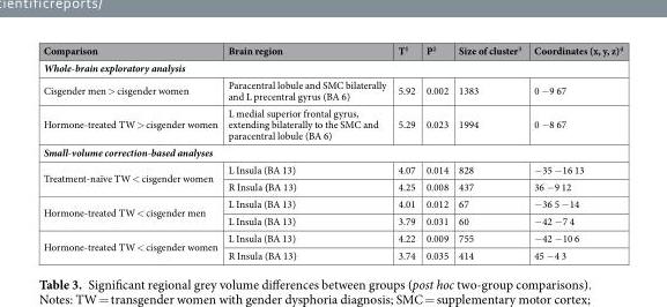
<table><thead><tr><td>Comparison</td><td>Brain region</td><td>T<sup>1</sup></td><td>P<sup>2</sup></td><td>Size of cluster<sup>3</sup></td><td>Coordinates (x, y, z)<sup>4</sup></td></tr></thead><tbody><tr><td colspan="6">Whole-brain exploratory analysis</td></tr><tr><td>Cisgender men &gt; cisgender women</td><td>Paracentral lobule and SMC bilaterally and L precentral gyrus (BA 6)</td><td>5.92</td><td>0.002</td><td>1383</td><td>0 −9 67</td></tr><tr><td>Hormone-treated TW &gt; cisgender women</td><td>L medial superior frontal gyrus, extending bilaterally to the SMC and paracentral lobule (BA 6)</td><td>5.29</td><td>0.023</td><td>1994</td><td>0 −8 67</td></tr><tr><td colspan="6">Small-volume correction-based analyses</td></tr><tr><td rowspan="2">Treatment-naïve TW &lt; cisgender women</td><td>L Insula (BA 13)</td><td>4.07</td><td>0.014</td><td>828</td><td>−35 −16 13</td></tr><tr><td>R Insula (BA 13)</td><td>4.25</td><td>0.008</td><td>437</td><td>36 −9 12</td></tr><tr><td rowspan="2">Hormone-treated TW &lt; cisgender men</td><td>L Insula (BA 13)</td><td>4.01</td><td>0.012</td><td>67</td><td>−36 5 −14</td></tr><tr><td>L Insula (BA 13)</td><td>3.79</td><td>0.031</td><td>60</td><td>−42 −7 4</td></tr><tr><td rowspan="2">Hormone-treated TW &lt; cisgender women</td><td>L Insula (BA 13)</td><td>4.22</td><td>0.009</td><td>755</td><td>−42 −10 6</td></tr><tr><td>R Insula (BA 13)</td><td>3.74</td><td>0.035</td><td>414</td><td>45 −4 3</td></tr></tbody></table>